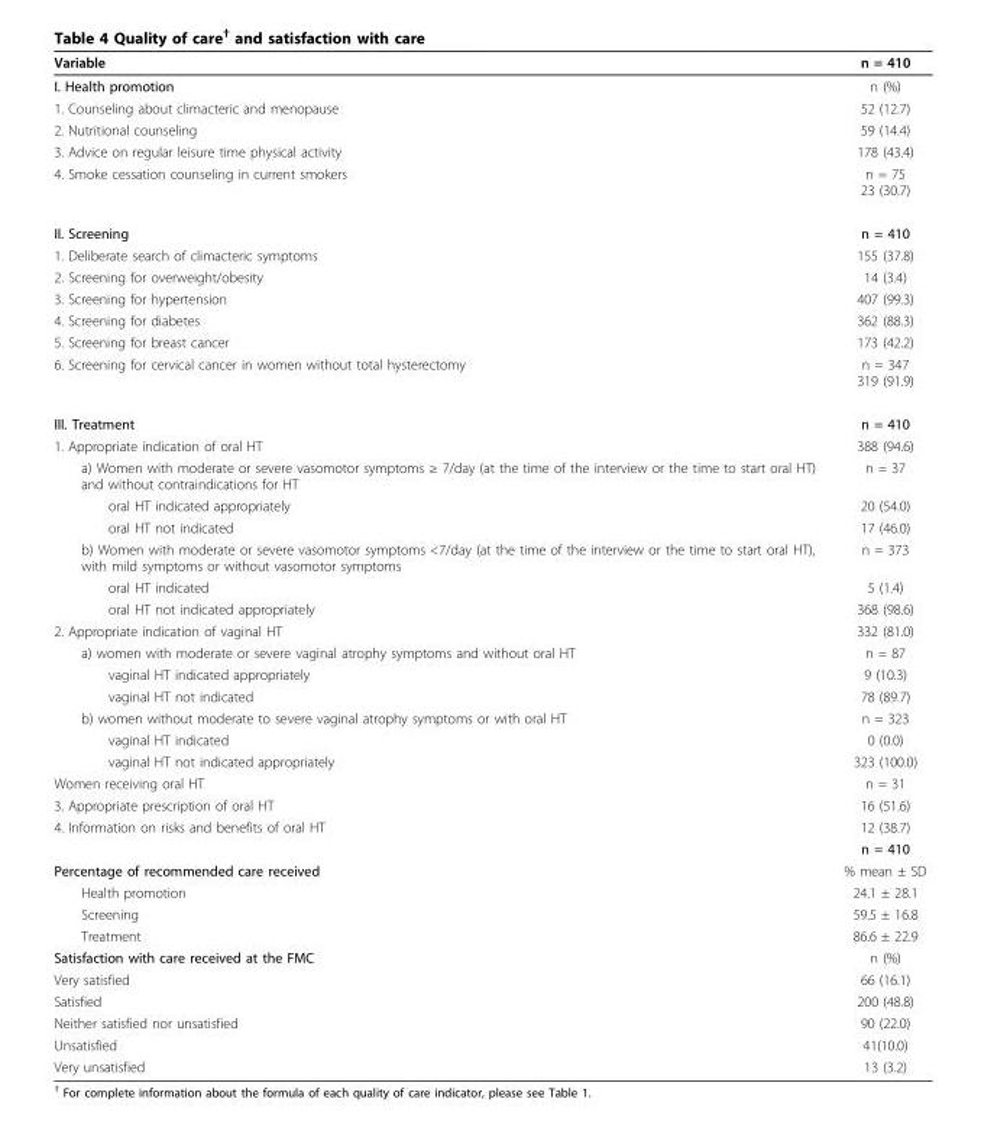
<table><thead><tr><td>Variable</td><td>n = 410</td></tr></thead><tbody><tr><td>I. Health promotion</td><td>n (%)</td></tr><tr><td>1. Counseling about climacteric and menopause</td><td>52 (12.7)</td></tr><tr><td>2. Nutritional counseling</td><td>59 (14.4)</td></tr><tr><td>3. Advice on regular leisure time physical activity</td><td>178 (43.4)</td></tr><tr><td>4. Smoke cessation counseling in current smokers</td><td>n = 75 23 (30.7)</td></tr><tr><td>II. Screening</td><td>n = 410</td></tr><tr><td>1. Deliberate search of climacteric symptoms</td><td>155 (37.8)</td></tr><tr><td>2. Screening for overweight/obesity</td><td>14 (3.4)</td></tr><tr><td>3. Screening for hypertension</td><td>407 (99.3)</td></tr><tr><td>4. Screening for diabetes</td><td>362 (88.3)</td></tr><tr><td>5. Screening for breast cancer</td><td>173 (42.2)</td></tr><tr><td>6. Screening for cervical cancer in women without total hysterectomy</td><td>n = 347 319 (91.9)</td></tr><tr><td>III. Treatment</td><td>n = 410</td></tr><tr><td>1. Appropriate indication of oral HT</td><td>388 (94.6)</td></tr><tr><td>a) Women with moderate or severe vasomotor symptoms ≥ 7/day (at the time of the interview or the time to start oral HT) and without contraindications for HT</td><td>n = 37</td></tr><tr><td>oral HT indicated appropriately</td><td>20 (54.0)</td></tr><tr><td>oral HT not indicated</td><td>17 (46.0)</td></tr><tr><td>b) Women with moderate or severe vasomotor symptoms &lt;7/day (at the time of the interview or the time to start oral HT), with mild symptoms or without vasomotor symptoms</td><td>n = 373</td></tr><tr><td>oral HT indicated</td><td>5 (1.4)</td></tr><tr><td>oral HT not indicated appropriately</td><td>368 (98.6)</td></tr><tr><td>2. Appropriate indication of vaginal HT</td><td>332 (81.0)</td></tr><tr><td>a) women with moderate or severe vaginal atrophy symptoms and without oral HT</td><td>n = 87</td></tr><tr><td>vaginal HT indicated appropriately</td><td>9 (10.3)</td></tr><tr><td>vaginal HT not indicated</td><td>78 (89.7)</td></tr><tr><td>b) women without moderate to severe vaginal atrophy symptoms or with oral HT</td><td>n = 323</td></tr><tr><td>vaginal HT indicated</td><td>0 (0.0)</td></tr><tr><td>vaginal HT not indicated appropriately</td><td>323 (100.0)</td></tr><tr><td>Women receiving oral HT</td><td>n = 31</td></tr><tr><td>3. Appropriate prescription of oral HT</td><td>16 (51.6)</td></tr><tr><td rowspan="2">4. Information on risks and benefits of oral HT</td><td>12 (38.7)</td></tr><tr><td>n = 410</td></tr><tr><td>Percentage of recommended care received</td><td>% mean ± SD</td></tr><tr><td>Health promotion</td><td>24.1 ± 28.1</td></tr><tr><td>Screening</td><td>59.5 ± 16.8</td></tr><tr><td>Treatment</td><td>86.6 ± 22.9</td></tr><tr><td>Satisfaction with care received at the FMC</td><td>n (%)</td></tr><tr><td>Very satisfied</td><td>66 (16.1)</td></tr><tr><td>Satisfied</td><td>200 (48.8)</td></tr><tr><td>Neither satisfied nor unsatisfied</td><td>90 (22.0)</td></tr><tr><td>Unsatisfied</td><td>41(10.0)</td></tr><tr><td>Very unsatisfied</td><td>13 (3.2)</td></tr></tbody></table>